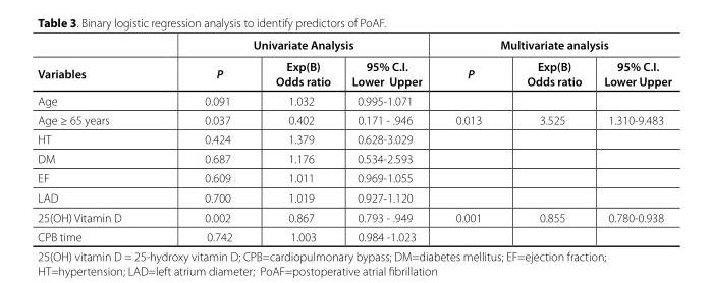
<table><thead><tr><td rowspan="2">Variables</td><td colspan="3">Univariate Analysis</td><td colspan="3">Multivariate analysis</td></tr><tr><td>P</td><td>Exp(B) Odds ratio</td><td>95% C.I. Lower Upper</td><td>P</td><td>Exp(B) Odds ratio</td><td>95% C.I. Lower Upper</td></tr></thead><tbody><tr><td>Age</td><td>0.091</td><td>1.032</td><td>0.995-1.071</td><td></td><td></td><td></td></tr><tr><td>Age ≥ 65 years</td><td>0.037</td><td>0.402</td><td>0.171 - .946</td><td>0.013</td><td>3.525</td><td>1.310-9.483</td></tr><tr><td>HT</td><td>0.424</td><td>1.379</td><td>0.628-3.029</td><td></td><td></td><td></td></tr><tr><td>DM</td><td>0.687</td><td>1.176</td><td>0.534-2.593</td><td></td><td></td><td></td></tr><tr><td>EF</td><td>0.609</td><td>1.011</td><td>0.969-1.055</td><td></td><td></td><td></td></tr><tr><td>LAD</td><td>0.700</td><td>1.019</td><td>0.927-1.120</td><td></td><td></td><td></td></tr><tr><td>25(OH) Vitamin D</td><td>0.002</td><td>0.867</td><td>0.793 - .949</td><td>0.001</td><td>0.855</td><td>0.780-0.938</td></tr><tr><td>CPB time</td><td>0.742</td><td>1.003</td><td>0.984 -1.023</td><td></td><td></td><td></td></tr></tbody></table>